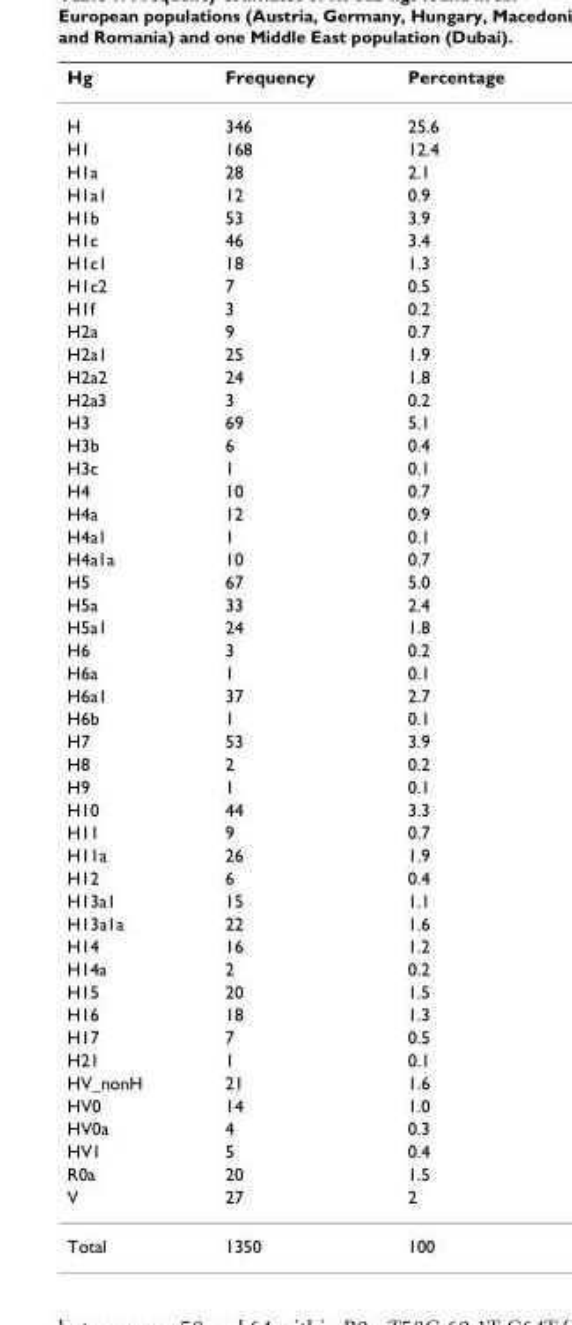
<table><thead><tr><td>Hg</td><td>Frequency</td><td>Percentage</td></tr></thead><tbody><tr><td>H</td><td>346</td><td>25.6</td></tr><tr><td>H1</td><td>168</td><td>12.4</td></tr><tr><td>H1a</td><td>28</td><td>2.1</td></tr><tr><td>H1a1</td><td>12</td><td>0.9</td></tr><tr><td>H1b</td><td>53</td><td>3.9</td></tr><tr><td>H1c</td><td>46</td><td>3.4</td></tr><tr><td>H1c1</td><td>18</td><td>1.3</td></tr><tr><td>H1c2</td><td>7</td><td>0.5</td></tr><tr><td>H1f</td><td>3</td><td>0.2</td></tr><tr><td>H2a</td><td>9</td><td>0.7</td></tr><tr><td>H2a1</td><td>25</td><td>1.9</td></tr><tr><td>H2a2</td><td>24</td><td>1.8</td></tr><tr><td>H2a3</td><td>3</td><td>0.2</td></tr><tr><td>H3</td><td>69</td><td>5.1</td></tr><tr><td>H3b</td><td>6</td><td>0.4</td></tr><tr><td>H3c</td><td>1</td><td>0.1</td></tr><tr><td>H4</td><td>10</td><td>0.7</td></tr><tr><td>H4a</td><td>12</td><td>0.9</td></tr><tr><td>H4a1</td><td>1</td><td>0.1</td></tr><tr><td>H4a1a</td><td>10</td><td>0.7</td></tr><tr><td>H5</td><td>67</td><td>5.0</td></tr><tr><td>H5a</td><td>33</td><td>2.4</td></tr><tr><td>H5a1</td><td>24</td><td>1.8</td></tr><tr><td>H6</td><td>3</td><td>0.2</td></tr><tr><td>H6a</td><td>1</td><td>0.1</td></tr><tr><td>H6a1</td><td>37</td><td>2.7</td></tr><tr><td>H6b</td><td>1</td><td>0.1</td></tr><tr><td>H7</td><td>53</td><td>3.9</td></tr><tr><td>H8</td><td>2</td><td>0.2</td></tr><tr><td>H9</td><td>1</td><td>0.1</td></tr><tr><td>H10</td><td>44</td><td>3.3</td></tr><tr><td>H11</td><td>9</td><td>0.7</td></tr><tr><td>H11a</td><td>26</td><td>1.9</td></tr><tr><td>H12</td><td>6</td><td>0.4</td></tr><tr><td>H13a1</td><td>15</td><td>1.1</td></tr><tr><td>H13a1a</td><td>22</td><td>1.6</td></tr><tr><td>H14</td><td>16</td><td>1.2</td></tr><tr><td>H14a</td><td>2</td><td>0.2</td></tr><tr><td>H15</td><td>20</td><td>1.5</td></tr><tr><td>H16</td><td>18</td><td>1.3</td></tr><tr><td>H17</td><td>7</td><td>0.5</td></tr><tr><td>H21</td><td>1</td><td>0.1</td></tr><tr><td>HV_nonH</td><td>21</td><td>1.6</td></tr><tr><td>HV0</td><td>14</td><td>1.0</td></tr><tr><td>HV0a</td><td>4</td><td>0.3</td></tr><tr><td>HV1</td><td>5</td><td>0.4</td></tr><tr><td>R0a</td><td>20</td><td>1.5</td></tr><tr><td>V</td><td>27</td><td>2</td></tr><tr><td>Total</td><td>1350</td><td>100</td></tr></tbody></table>